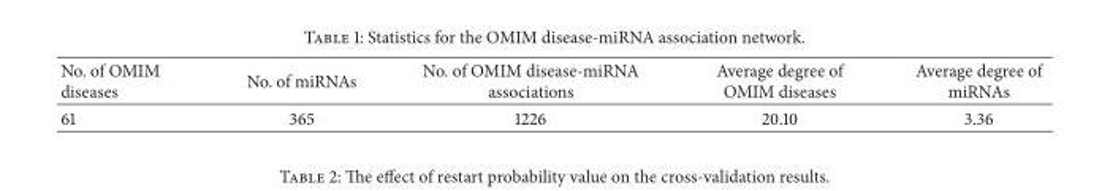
<table><thead><tr><td>No. of OMIM diseases</td><td>No. of miRNAs</td><td>No. of OMIM disease-miRNA associations</td><td>Average degree of OMIM diseases</td><td>Average degree of miRNAs</td></tr></thead><tbody><tr><td>61</td><td>365</td><td>1226</td><td>20.10</td><td>3.36</td></tr></tbody></table>